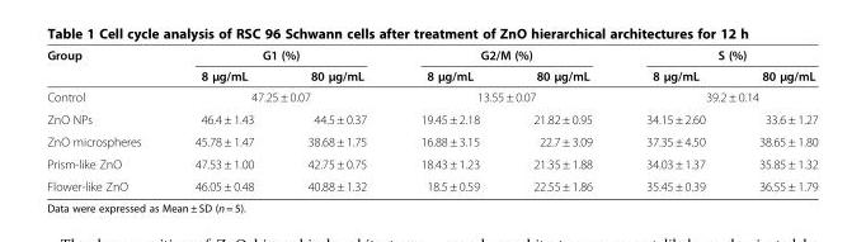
<table><thead><tr><td rowspan="2">Group</td><td colspan="2">G1 (%)</td><td colspan="2">G2/M (%)</td><td colspan="2">S (%)</td></tr><tr><td>8 μg/mL</td><td>80 μg/mL</td><td>8 μg/mL</td><td>80 μg/mL</td><td>8 μg/mL</td><td>80 μg/mL</td></tr></thead><tbody><tr><td>Control</td><td colspan="2">47.25 ± 0.07</td><td colspan="2">13.55 ± 0.07</td><td colspan="2">39.2 ± 0.14</td></tr><tr><td>ZnO NPs</td><td>46.4 ± 1.43</td><td>44.5 ± 0.37</td><td>19.45 ± 2.18</td><td>21.82 ± 0.95</td><td>34.15 ± 2.60</td><td>33.6 ± 1.27</td></tr><tr><td>ZnO microspheres</td><td>45.78 ± 1.47</td><td>38.68 ± 1.75</td><td>16.88 ± 3.15</td><td>22.7 ± 3.09</td><td>37.35 ± 4.50</td><td>38.65 ± 1.80</td></tr><tr><td>Prism-like ZnO</td><td>47.53 ± 1.00</td><td>42.75 ± 0.75</td><td>18.43 ± 1.23</td><td>21.35 ± 1.88</td><td>34.03 ± 1.37</td><td>35.85 ± 1.32</td></tr><tr><td>Flower-like ZnO</td><td>46.05 ± 0.48</td><td>40.88 ± 1.32</td><td>18.5 ± 0.59</td><td>22.55 ± 1.86</td><td>35.45 ± 0.39</td><td>36.55 ± 1.79</td></tr></tbody></table>